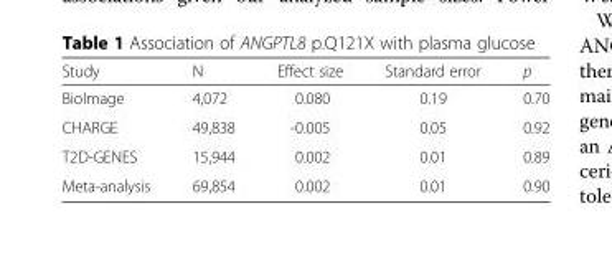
<table><thead><tr><td>Study</td><td>N</td><td>Effect size</td><td>Standard error</td><td>p</td></tr></thead><tbody><tr><td>BioImage</td><td>4,072</td><td>0.080</td><td>0.19</td><td>0.70</td></tr><tr><td>CHARGE</td><td>49,838</td><td>-0.005</td><td>0.05</td><td>0.92</td></tr><tr><td>T2D-GENES</td><td>15,944</td><td>0.002</td><td>0.01</td><td>0.89</td></tr><tr><td>Meta-analysis</td><td>69,854</td><td>0.002</td><td>0.01</td><td>0.90</td></tr></tbody></table>